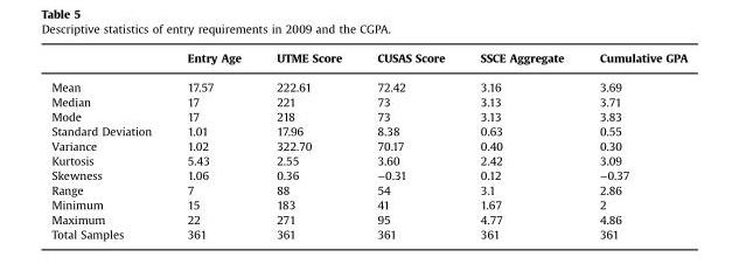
<table><thead><tr><td></td><td>Entry Age</td><td>UTME Score</td><td>CUSAS Score</td><td>SSCE Aggregate</td><td>Cumulative GPA</td></tr></thead><tbody><tr><td>Mean</td><td>17.57</td><td>222.61</td><td>72.42</td><td>3.16</td><td>3.69</td></tr><tr><td>Median</td><td>17</td><td>221</td><td>73</td><td>3.13</td><td>3.71</td></tr><tr><td>Mode</td><td>17</td><td>218</td><td>73</td><td>3.13</td><td>3.83</td></tr><tr><td>Standard Deviation</td><td>1.01</td><td>17.96</td><td>8.38</td><td>0.63</td><td>0.55</td></tr><tr><td>Variance</td><td>1.02</td><td>322.70</td><td>70.17</td><td>0.40</td><td>0.30</td></tr><tr><td>Kurtosis</td><td>5.43</td><td>2.55</td><td>3.60</td><td>2.42</td><td>3.09</td></tr><tr><td>Skewness</td><td>1.06</td><td>0.36</td><td>−0.31</td><td>0.12</td><td>−0.37</td></tr><tr><td>Range</td><td>7</td><td>88</td><td>54</td><td>3.1</td><td>2.86</td></tr><tr><td>Minimum</td><td>15</td><td>183</td><td>41</td><td>1.67</td><td>2</td></tr><tr><td>Maximum</td><td>22</td><td>271</td><td>95</td><td>4.77</td><td>4.86</td></tr><tr><td>Total Samples</td><td>361</td><td>361</td><td>361</td><td>361</td><td>361</td></tr></tbody></table>